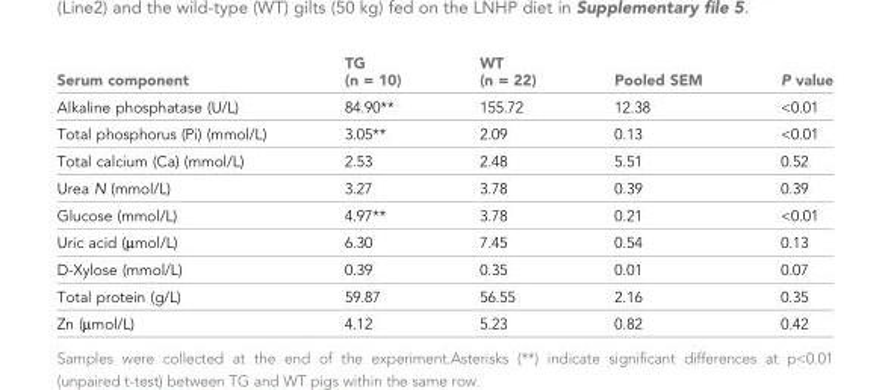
<table><thead><tr><td>Serum component</td><td>TG (n = 10)</td><td>WT (n = 22)</td><td>Pooled SEM</td><td>P value</td></tr></thead><tbody><tr><td>Alkaline phosphatase (U/L)</td><td>84.90**</td><td>155.72</td><td>12.38</td><td>&lt;0.01</td></tr><tr><td>Total phosphorus (Pi) (mmol/L)</td><td>3.05**</td><td>2.09</td><td>0.13</td><td>&lt;0.01</td></tr><tr><td>Total calcium (Ca) (mmol/L)</td><td>2.53</td><td>2.48</td><td>5.51</td><td>0.52</td></tr><tr><td>Urea N (mmol/L)</td><td>3.27</td><td>3.78</td><td>0.39</td><td>0.39</td></tr><tr><td>Glucose (mmol/L)</td><td>4.97**</td><td>3.78</td><td>0.21</td><td>&lt;0.01</td></tr><tr><td>Uric acid (µmol/L)</td><td>6.30</td><td>7.45</td><td>0.54</td><td>0.13</td></tr><tr><td>D-Xylose (mmol/L)</td><td>0.39</td><td>0.35</td><td>0.01</td><td>0.07</td></tr><tr><td>Total protein (g/L)</td><td>59.87</td><td>56.55</td><td>2.16</td><td>0.35</td></tr><tr><td>Zn (µmol/L)</td><td>4.12</td><td>5.23</td><td>0.82</td><td>0.42</td></tr></tbody></table>